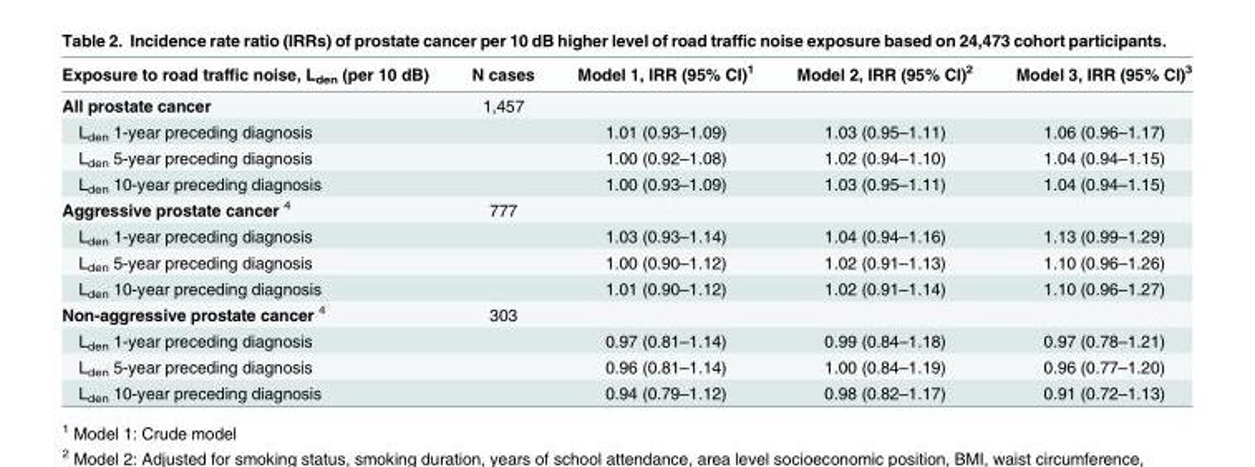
<table><thead><tr><td>Exposure to road traffic noise, L<sub>den</sub> (per 10 dB)</td><td>N cases</td><td>Model 1, IRR (95% CI)<sup>1</sup></td><td>Model 2, IRR (95% CI)<sup>2</sup></td><td>Model 3, IRR (95% CI)<sup>3</sup></td></tr></thead><tbody><tr><td>All prostate cancer</td><td>1,457</td><td></td><td></td><td></td></tr><tr><td>L<sub>den</sub> 1-year preceding diagnosis</td><td></td><td>1.01 (0.93–1.09)</td><td>1.03 (0.95–1.11)</td><td>1.06 (0.96–1.17)</td></tr><tr><td>L<sub>den</sub> 5-year preceding diagnosis</td><td></td><td>1.00 (0.92–1.08)</td><td>1.02 (0.94–1.10)</td><td>1.04 (0.94–1.15)</td></tr><tr><td>L<sub>den</sub> 10-year preceding diagnosis</td><td></td><td>1.00 (0.93–1.09)</td><td>1.03 (0.95–1.11)</td><td>1.04 (0.94–1.15)</td></tr><tr><td>Aggressive prostate cancer <sup>4</sup></td><td>777</td><td></td><td></td><td></td></tr><tr><td>L<sub>den</sub> 1-year preceding diagnosis</td><td></td><td>1.03 (0.93–1.14)</td><td>1.04 (0.94–1.16)</td><td>1.13 (0.99–1.29)</td></tr><tr><td>L<sub>den</sub> 5-year preceding diagnosis</td><td></td><td>1.00 (0.90–1.12)</td><td>1.02 (0.91–1.13)</td><td>1.10 (0.96–1.26)</td></tr><tr><td>L<sub>den</sub> 10-year preceding diagnosis</td><td></td><td>1.01 (0.90–1.12)</td><td>1.02 (0.91–1.14)</td><td>1.10 (0.96–1.27)</td></tr><tr><td>Non-aggressive prostate cancer <sup>4</sup></td><td>303</td><td></td><td></td><td></td></tr><tr><td>L<sub>den</sub> 1-year preceding diagnosis</td><td></td><td>0.97 (0.81–1.14)</td><td>0.99 (0.84–1.18)</td><td>0.97 (0.78–1.21)</td></tr><tr><td>L<sub>den</sub> 5-year preceding diagnosis</td><td></td><td>0.96 (0.81–1.14)</td><td>1.00 (0.84–1.19)</td><td>0.96 (0.77–1.20)</td></tr><tr><td>L<sub>den</sub> 10-year preceding diagnosis</td><td></td><td>0.94 (0.79–1.12)</td><td>0.98 (0.82–1.17)</td><td>0.91 (0.72–1.13)</td></tr></tbody></table>